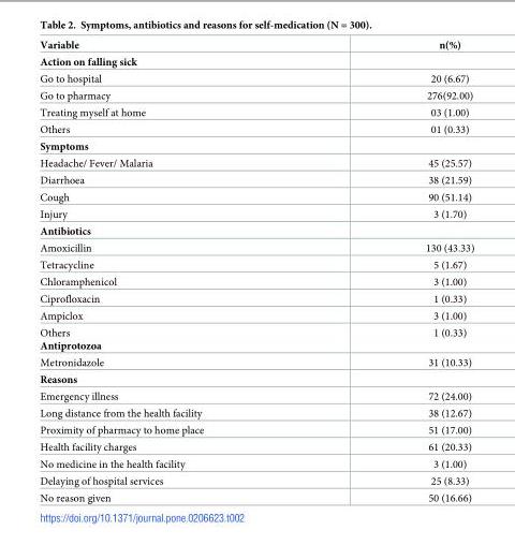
<table><thead><tr><td>Variable</td><td>n(%)</td></tr></thead><tbody><tr><td colspan="2">Action on falling sick</td></tr><tr><td>Go to hospital</td><td>20 (6.67)</td></tr><tr><td>Go to pharmacy</td><td>276(92.00)</td></tr><tr><td>Treating myself at home</td><td>03 (1.00)</td></tr><tr><td>Others</td><td>01 (0.33)</td></tr><tr><td colspan="2">Symptoms</td></tr><tr><td>Headache/ Fever/ Malaria</td><td>45 (25.57)</td></tr><tr><td>Diarrhoea</td><td>38 (21.59)</td></tr><tr><td>Cough</td><td>90 (51.14)</td></tr><tr><td>Injury</td><td>3 (1.70)</td></tr><tr><td colspan="2">Antibiotics</td></tr><tr><td>Amoxicillin</td><td>130 (43.33)</td></tr><tr><td>Tetracycline</td><td>5 (1.67)</td></tr><tr><td>Chloramphenicol</td><td>3 (1.00)</td></tr><tr><td>Ciprofloxacin</td><td>1 (0.33)</td></tr><tr><td>Ampiclox</td><td>3 (1.00)</td></tr><tr><td>Others Antiprotozoa</td><td>1 (0.33)</td></tr><tr><td>Metronidazole</td><td>31 (10.33)</td></tr><tr><td colspan="2">Reasons</td></tr><tr><td>Emergency illness</td><td>72 (24.00)</td></tr><tr><td>Long distance from the health facility</td><td>38 (12.67)</td></tr><tr><td>Proximity of pharmacy to home place</td><td>51 (17.00)</td></tr><tr><td>Health facility charges</td><td>61 (20.33)</td></tr><tr><td>No medicine in the health facility</td><td>3 (1.00)</td></tr><tr><td>Delaying of hospital services</td><td>25 (8.33)</td></tr><tr><td>No reason given</td><td>50 (16.66)</td></tr></tbody></table>